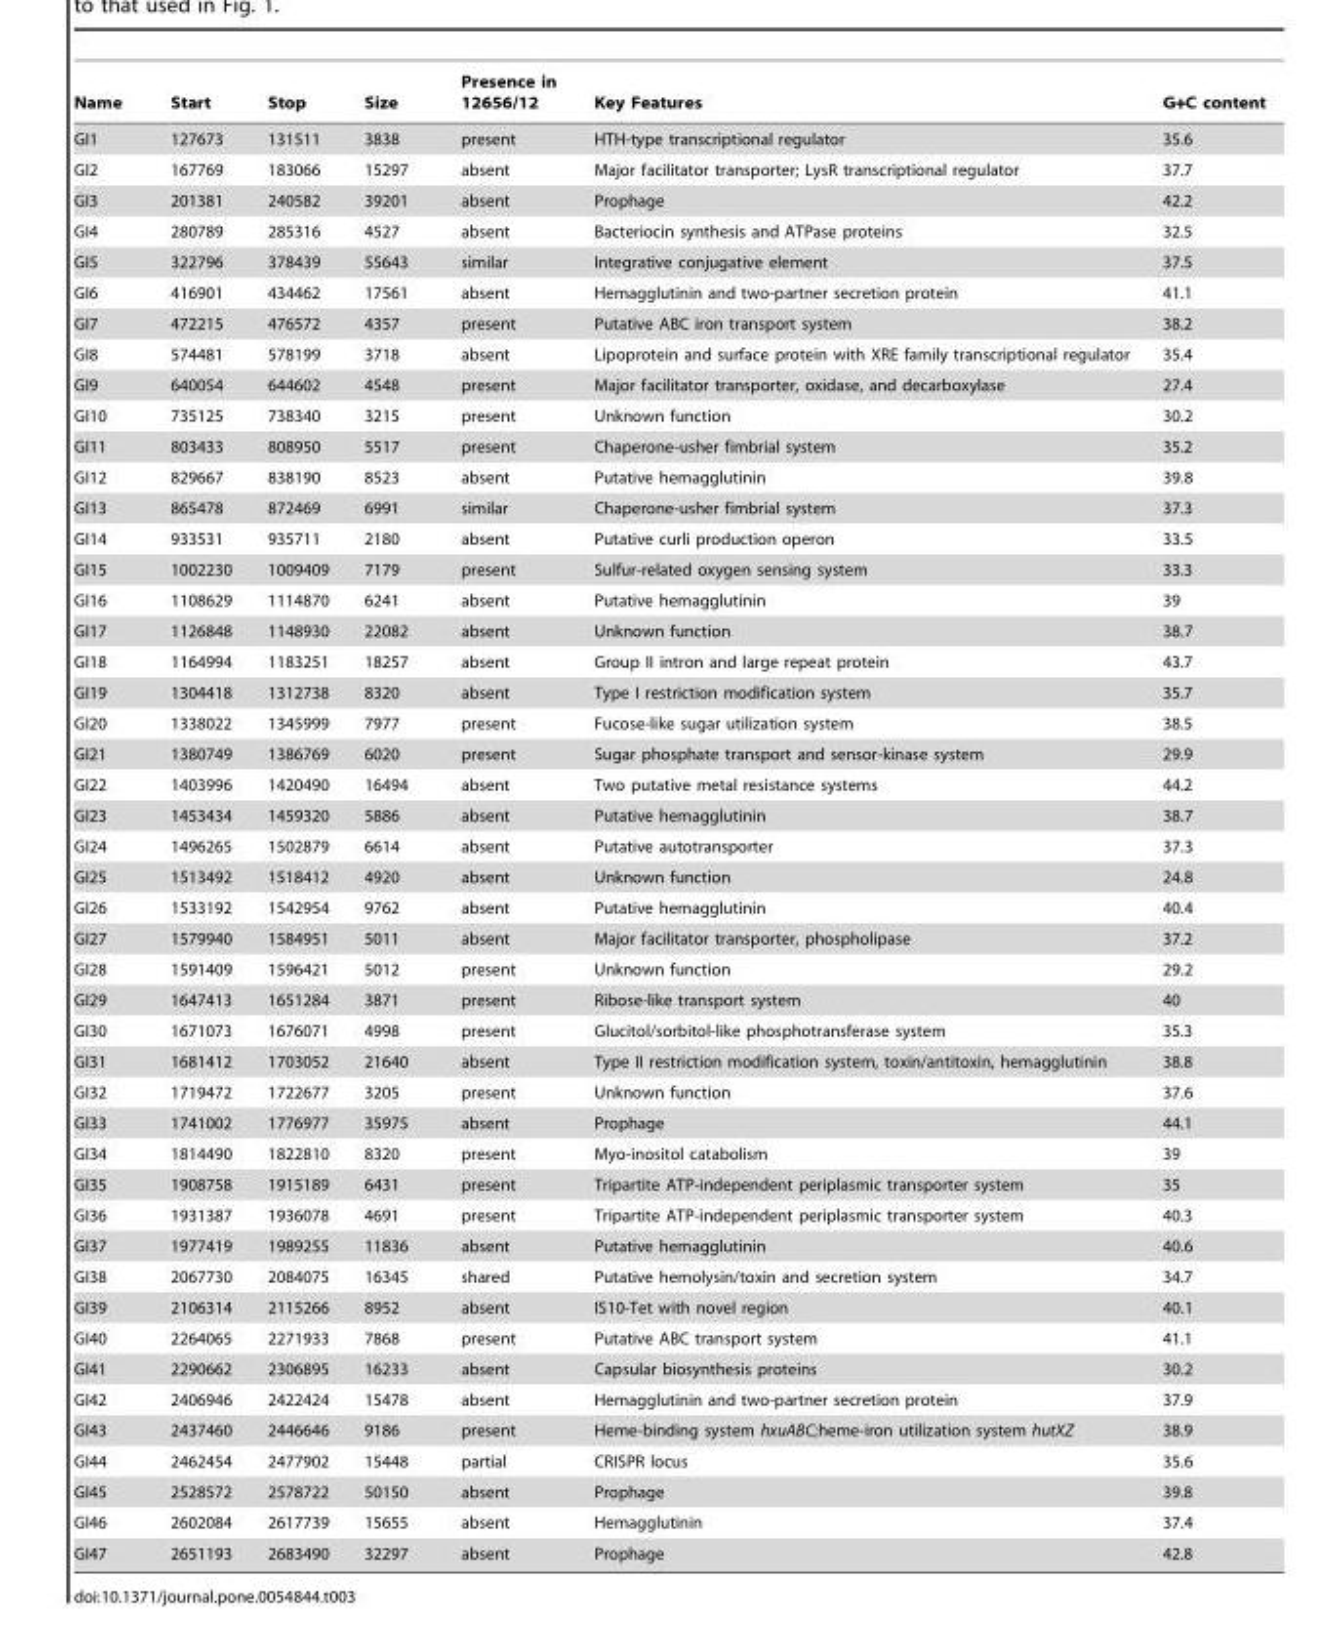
<table><thead><tr><td>Name</td><td>Start</td><td>Stop</td><td>Size</td><td>Presence in 12656/12</td><td>Key Features</td><td>G+C content</td></tr></thead><tbody><tr><td>GI1</td><td>127673</td><td>131511</td><td>3838</td><td>present</td><td>HTH-type transcriptional regulator</td><td>35.6</td></tr><tr><td>GI2</td><td>167769</td><td>183066</td><td>15297</td><td>absent</td><td>Major facilitator transporter; LysR transcriptional regulator</td><td>37.7</td></tr><tr><td>GI3</td><td>201381</td><td>240582</td><td>39201</td><td>absent</td><td>Prophage</td><td>42.2</td></tr><tr><td>GI4</td><td>280789</td><td>285316</td><td>4527</td><td>absent</td><td>Bacteriocin synthesis and ATPase proteins</td><td>32.5</td></tr><tr><td>GI5</td><td>322796</td><td>378439</td><td>55643</td><td>similar</td><td>Integrative conjugative element</td><td>37.5</td></tr><tr><td>GI6</td><td>416901</td><td>434462</td><td>17561</td><td>absent</td><td>Hemagglutinin and two-partner secretion protein</td><td>41.1</td></tr><tr><td>GI7</td><td>472215</td><td>476572</td><td>4357</td><td>present</td><td>Putative ABC iron transport system</td><td>38.2</td></tr><tr><td>GI8</td><td>574481</td><td>578199</td><td>3718</td><td>absent</td><td>Lipoprotein and surface protein with XRE family transcriptional regulator</td><td>35.4</td></tr><tr><td>GI9</td><td>640054</td><td>644602</td><td>4548</td><td>present</td><td>Major facilitator transporter, oxidase, and decarboxylase</td><td>27.4</td></tr><tr><td>GI10</td><td>735125</td><td>738340</td><td>3215</td><td>present</td><td>Unknown function</td><td>30.2</td></tr><tr><td>GI11</td><td>803433</td><td>808950</td><td>5517</td><td>present</td><td>Chaperone-usher fimbrial system</td><td>35.2</td></tr><tr><td>GI12</td><td>829667</td><td>838190</td><td>8523</td><td>absent</td><td>Putative hemagglutinin</td><td>39.8</td></tr><tr><td>GI13</td><td>865478</td><td>872469</td><td>6991</td><td>similar</td><td>Chaperone-usher fimbrial system</td><td>37.3</td></tr><tr><td>GI14</td><td>933531</td><td>935711</td><td>2180</td><td>absent</td><td>Putative curli production operon</td><td>33.5</td></tr><tr><td>GI15</td><td>1002230</td><td>1009409</td><td>7179</td><td>present</td><td>Sulfur-related oxygen sensing system</td><td>33.3</td></tr><tr><td>GI16</td><td>1108629</td><td>1114870</td><td>6241</td><td>absent</td><td>Putative hemagglutinin</td><td>39</td></tr><tr><td>GI17</td><td>1126848</td><td>1148930</td><td>22082</td><td>absent</td><td>Unknown function</td><td>38.7</td></tr><tr><td>GI18</td><td>1164994</td><td>1183251</td><td>18257</td><td>absent</td><td>Group II intron and large repeat protein</td><td>43.7</td></tr><tr><td>GI19</td><td>1304418</td><td>1312738</td><td>8320</td><td>absent</td><td>Type I restriction modification system</td><td>35.7</td></tr><tr><td>GI20</td><td>1338022</td><td>1345999</td><td>7977</td><td>present</td><td>Fucose-like sugar utilization system</td><td>38.5</td></tr><tr><td>GI21</td><td>1380749</td><td>1386769</td><td>6020</td><td>present</td><td>Sugar phosphate transport and sensor-kinase system</td><td>29.9</td></tr><tr><td>GI22</td><td>1403996</td><td>1420490</td><td>16494</td><td>absent</td><td>Two putative metal resistance systems</td><td>44.2</td></tr><tr><td>GI23</td><td>1453434</td><td>1459320</td><td>5886</td><td>absent</td><td>Putative hemagglutinin</td><td>38.7</td></tr><tr><td>GI24</td><td>1496265</td><td>1502879</td><td>6614</td><td>absent</td><td>Putative autotransporter</td><td>37.3</td></tr><tr><td>GI25</td><td>1513492</td><td>1518412</td><td>4920</td><td>absent</td><td>Unknown function</td><td>24.8</td></tr><tr><td>GI26</td><td>1533192</td><td>1542954</td><td>9762</td><td>absent</td><td>Putative hemagglutinin</td><td>40.4</td></tr><tr><td>GI27</td><td>1579940</td><td>1584951</td><td>5011</td><td>absent</td><td>Major facilitator transporter, phospholipase</td><td>37.2</td></tr><tr><td>GI28</td><td>1591409</td><td>1596421</td><td>5012</td><td>present</td><td>Unknown function</td><td>29.2</td></tr><tr><td>GI29</td><td>1647413</td><td>1651284</td><td>3871</td><td>present</td><td>Ribose-like transport system</td><td>40</td></tr><tr><td>GI30</td><td>1671073</td><td>1676071</td><td>4998</td><td>present</td><td>Glucitol/sorbitol-like phosphotransferase system</td><td>35.3</td></tr><tr><td>GI31</td><td>1681412</td><td>1703052</td><td>21640</td><td>absent</td><td>Type II restriction modification system, toxin/antitoxin, hemagglutinin</td><td>38.8</td></tr><tr><td>GI32</td><td>1719472</td><td>1722677</td><td>3205</td><td>present</td><td>Unknown function</td><td>37.6</td></tr><tr><td>GI33</td><td>1741002</td><td>1776977</td><td>35975</td><td>absent</td><td>Prophage</td><td>44.1</td></tr><tr><td>GI34</td><td>1814490</td><td>1822810</td><td>8320</td><td>present</td><td>Myo-inositol catabolism</td><td>39</td></tr><tr><td>GI35</td><td>1908758</td><td>1915189</td><td>6431</td><td>present</td><td>Tripartite ATP-independent periplasmic transporter system</td><td>35</td></tr><tr><td>GI36</td><td>1931387</td><td>1936078</td><td>4691</td><td>present</td><td>Tripartite ATP-independent periplasmic transporter system</td><td>40.3</td></tr><tr><td>GI37</td><td>1977419</td><td>1989255</td><td>11836</td><td>absent</td><td>Putative hemagglutinin</td><td>40.6</td></tr><tr><td>GI38</td><td>2067730</td><td>2084075</td><td>16345</td><td>shared</td><td>Putative hemolysin/toxin and secretion system</td><td>34.7</td></tr><tr><td>GI39</td><td>2106314</td><td>2115266</td><td>8952</td><td>absent</td><td>IS10-Tet with novel region</td><td>40.1</td></tr><tr><td>GI40</td><td>2264065</td><td>2271933</td><td>7868</td><td>present</td><td>Putative ABC transport system</td><td>41.1</td></tr><tr><td>GI41</td><td>2290662</td><td>2306895</td><td>16233</td><td>absent</td><td>Capsular biosynthesis proteins</td><td>30.2</td></tr><tr><td>GI42</td><td>2406946</td><td>2422424</td><td>15478</td><td>absent</td><td>Hemagglutinin and two-partner secretion protein</td><td>37.9</td></tr><tr><td>GI43</td><td>2437460</td><td>2446646</td><td>9186</td><td>present</td><td>Heme-binding system hxuABC;heme-iron utilization system hutXZ</td><td>38.9</td></tr><tr><td>GI44</td><td>2462454</td><td>2477902</td><td>15448</td><td>partial</td><td>CRISPR locus</td><td>35.6</td></tr><tr><td>GI45</td><td>2528572</td><td>2578722</td><td>50150</td><td>absent</td><td>Prophage</td><td>39.8</td></tr><tr><td>GI46</td><td>2602084</td><td>2617739</td><td>15655</td><td>absent</td><td>Hemagglutinin</td><td>37.4</td></tr><tr><td>GI47</td><td>2651193</td><td>2683490</td><td>32297</td><td>absent</td><td>Prophage</td><td>42.8</td></tr></tbody></table>